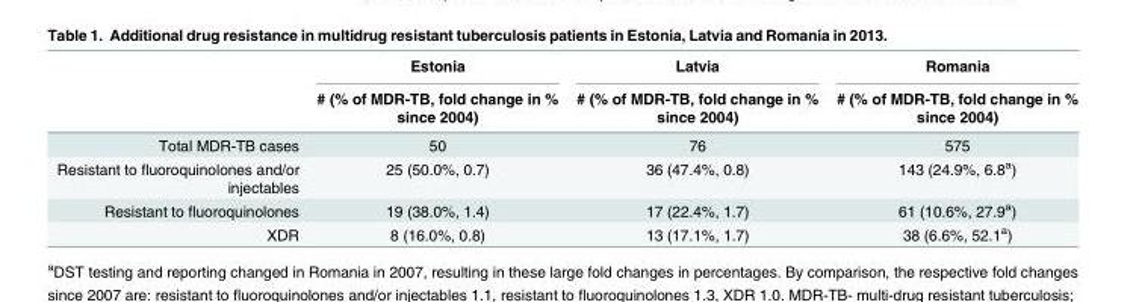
<table><thead><tr><td rowspan="2"></td><td rowspan="2">Estonia # (% of MDR-TB, fold change in % since 2004)</td><td rowspan="2">Latvia # (% of MDR-TB, fold change in % since 2004)</td><td rowspan="2">Romania # (% of MDR-TB, fold change in % since 2004)</td></tr><tr></tr></thead><tbody><tr><td>Total MDR-TB cases</td><td>50</td><td>76</td><td>575</td></tr><tr><td>Resistant to fluoroquinolones and/or injectables</td><td>25 (50.0%, 0.7)</td><td>36 (47.4%, 0.8)</td><td>143 (24.9%, 6.8<sup>a</sup>)</td></tr><tr><td>Resistant to fluoroquinolones</td><td>19 (38.0%, 1.4)</td><td>17 (22.4%, 1.7)</td><td>61 (10.6%, 27.9<sup>a</sup>)</td></tr><tr><td>XDR</td><td>8 (16.0%, 0.8)</td><td>13 (17.1%, 1.7)</td><td>38 (6.6%, 52.1<sup>a</sup>)</td></tr></tbody></table>